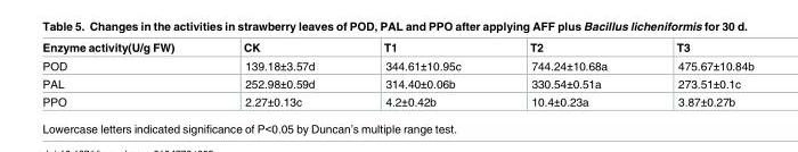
<table><thead><tr><td>Enzyme activity(U/g FW)</td><td>CK</td><td>T1</td><td>T2</td><td>T3</td></tr></thead><tbody><tr><td>POD</td><td>139.18±3.57d</td><td>344.61±10.95c</td><td>744.24±10.68a</td><td>475.67±10.84b</td></tr><tr><td>PAL</td><td>252.98±0.59d</td><td>314.40±0.06b</td><td>330.54±0.51a</td><td>273.51±0.1c</td></tr><tr><td>PPO</td><td>2.27±0.13c</td><td>4.2±0.42b</td><td>10.4±0.23a</td><td>3.87±0.27b</td></tr></tbody></table>